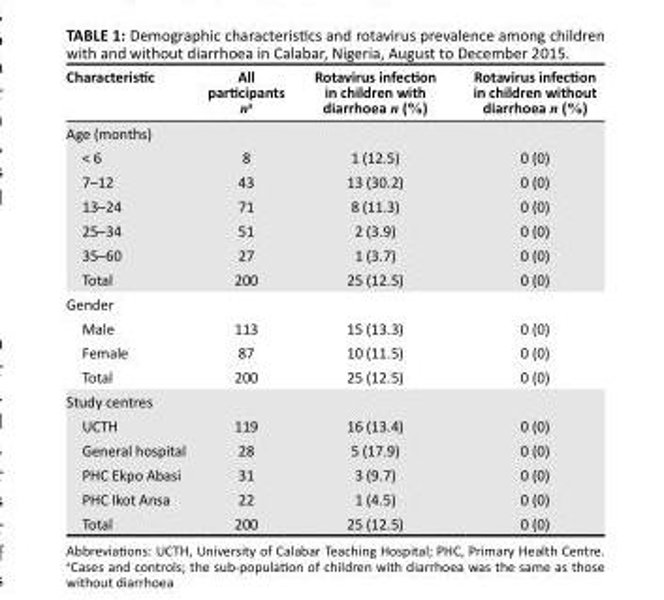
<table><thead><tr><td>Characteristic</td><td>All participants n<sup>a</sup></td><td>Rotavirus infection in children with diarrhoea n (%)</td><td>Rotavirus infection in children without diarrhoea n (%)</td></tr></thead><tbody><tr><td colspan="4">Age (months)</td></tr><tr><td>&lt; 6</td><td>8</td><td>1 (12.5)</td><td>0 (0)</td></tr><tr><td>7–12</td><td>43</td><td>13 (30.2)</td><td>0 (0)</td></tr><tr><td>13–24</td><td>71</td><td>8 (11.3)</td><td>0 (0)</td></tr><tr><td>25–34</td><td>51</td><td>2 (3.9)</td><td>0 (0)</td></tr><tr><td>35–60</td><td>27</td><td>1 (3.7)</td><td>0 (0)</td></tr><tr><td>Total</td><td>200</td><td>25 (12.5)</td><td>0 (0)</td></tr><tr><td colspan="4">Gender</td></tr><tr><td>Male</td><td>113</td><td>15 (13.3)</td><td>0 (0)</td></tr><tr><td>Female</td><td>87</td><td>10 (11.5)</td><td>0 (0)</td></tr><tr><td>Total</td><td>200</td><td>25 (12.5)</td><td>0 (0)</td></tr><tr><td colspan="4">Study centres</td></tr><tr><td>UCTH</td><td>119</td><td>16 (13.4)</td><td>0 (0)</td></tr><tr><td>General hospital</td><td>28</td><td>5 (17.9)</td><td>0 (0)</td></tr><tr><td>PHC Ekpo Abasi</td><td>31</td><td>3 (9.7)</td><td>0 (0)</td></tr><tr><td>PHC Ikot Ansa</td><td>22</td><td>1 (4.5)</td><td>0 (0)</td></tr><tr><td>Total</td><td>200</td><td>25 (12.5)</td><td>0 (0)</td></tr></tbody></table>